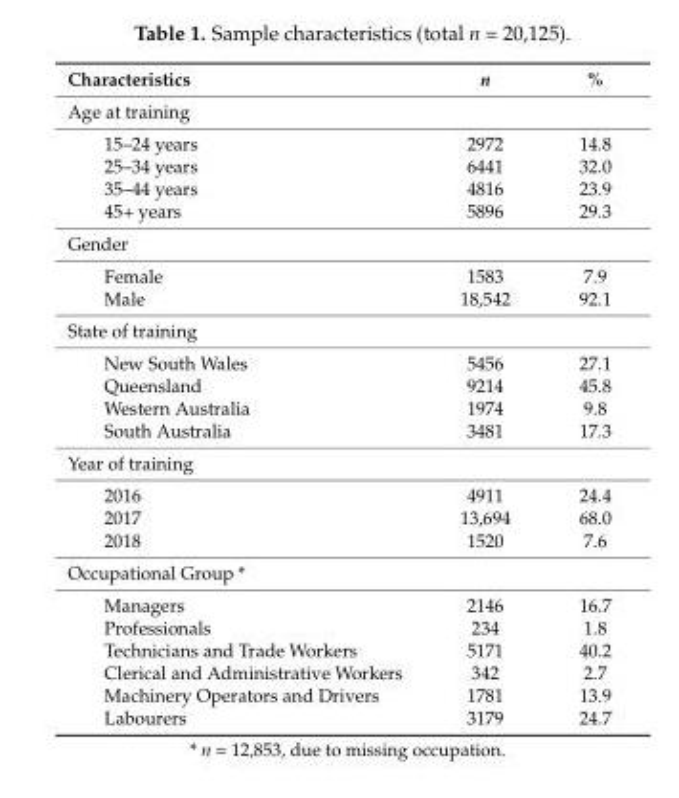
<table><thead><tr><td>Characteristics</td><td>n</td><td>%</td></tr></thead><tbody><tr><td colspan="3">Age at training</td></tr><tr><td>15–24 years</td><td>2972</td><td>14.8</td></tr><tr><td>25–34 years</td><td>6441</td><td>32.0</td></tr><tr><td>35–44 years</td><td>4816</td><td>23.9</td></tr><tr><td>45+ years</td><td>5896</td><td>29.3</td></tr><tr><td colspan="3">Gender</td></tr><tr><td>Female</td><td>1583</td><td>7.9</td></tr><tr><td>Male</td><td>18,542</td><td>92.1</td></tr><tr><td colspan="3">State of training</td></tr><tr><td>New South Wales</td><td>5456</td><td>27.1</td></tr><tr><td>Queensland</td><td>9214</td><td>45.8</td></tr><tr><td>Western Australia</td><td>1974</td><td>9.8</td></tr><tr><td>South Australia</td><td>3481</td><td>17.3</td></tr><tr><td colspan="3">Year of training</td></tr><tr><td>2016</td><td>4911</td><td>24.4</td></tr><tr><td>2017</td><td>13,694</td><td>68.0</td></tr><tr><td>2018</td><td>1520</td><td>7.6</td></tr><tr><td colspan="3">Occupational Group *</td></tr><tr><td>Managers</td><td>2146</td><td>16.7</td></tr><tr><td>Professionals</td><td>234</td><td>1.8</td></tr><tr><td>Technicians and Trade Workers</td><td>5171</td><td>40.2</td></tr><tr><td>Clerical and Administrative Workers</td><td>342</td><td>2.7</td></tr><tr><td>Machinery Operators and Drivers</td><td>1781</td><td>13.9</td></tr><tr><td>Labourers</td><td>3179</td><td>24.7</td></tr></tbody></table>